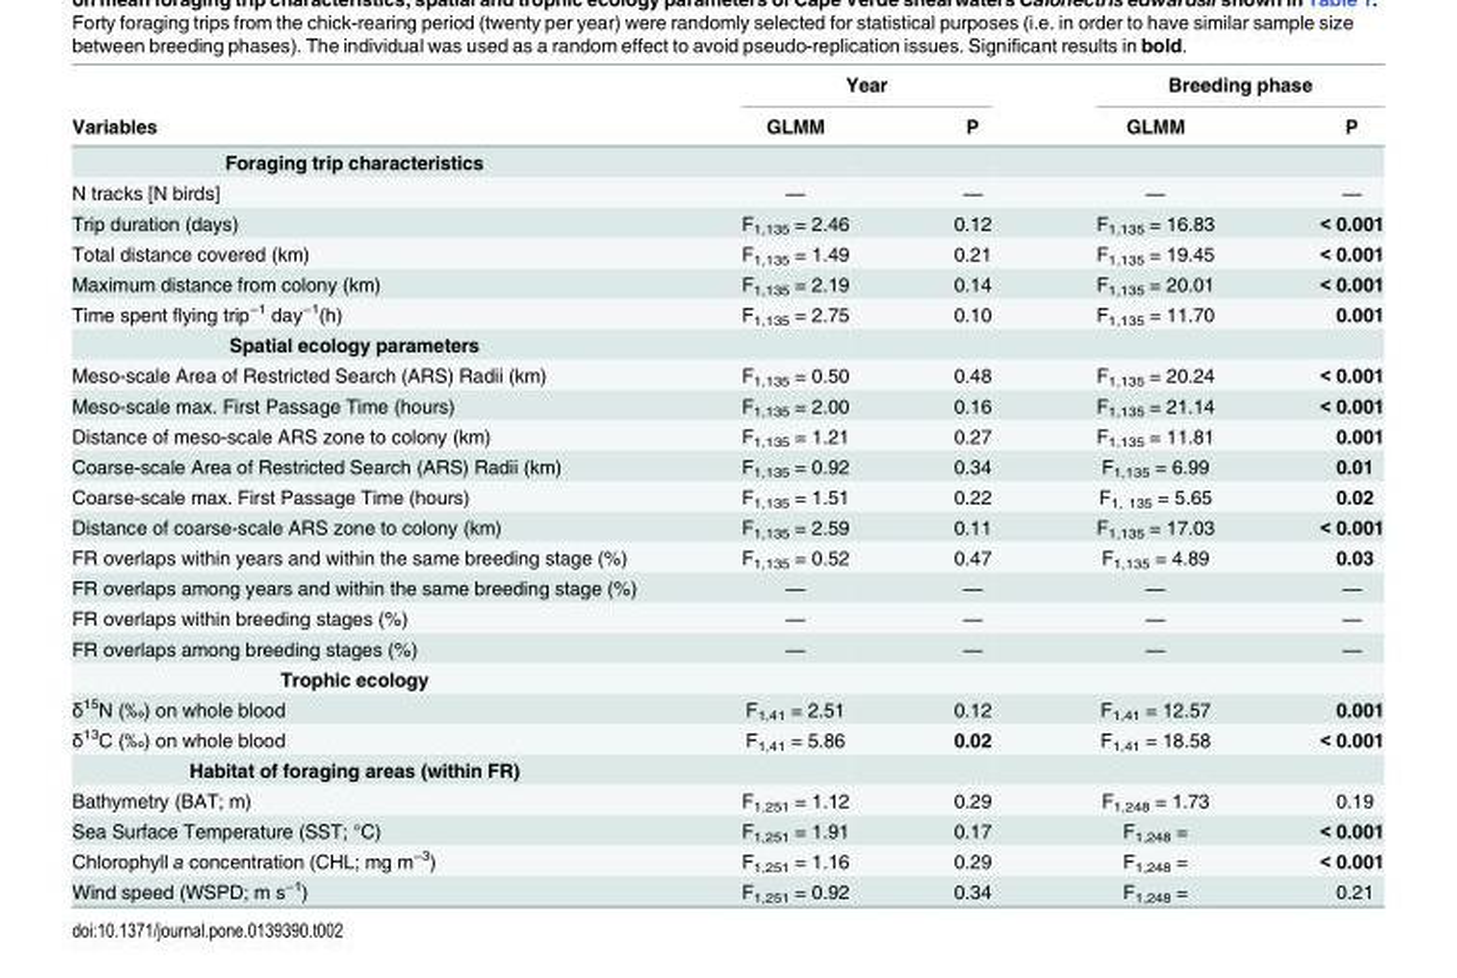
<table><thead><tr><td rowspan="2">Variables</td><td colspan="2">Year</td><td colspan="2">Breeding phase</td></tr><tr><td>GLMM</td><td>P</td><td>GLMM</td><td>P</td></tr></thead><tbody><tr><td colspan="5">Foraging trip characteristics</td></tr><tr><td>N tracks [N birds]</td><td>—</td><td>—</td><td>—</td><td>—</td></tr><tr><td>Trip duration (days)</td><td>F<sub>1,135</sub> = 2.46</td><td>0.12</td><td>F<sub>1,135</sub> = 16.83</td><td>&lt; 0.001</td></tr><tr><td>Total distance covered (km)</td><td>F<sub>1,135</sub> = 1.49</td><td>0.21</td><td>F<sub>1,135</sub> = 19.45</td><td>&lt; 0.001</td></tr><tr><td>Maximum distance from colony (km)</td><td>F<sub>1,135</sub> = 2.19</td><td>0.14</td><td>F<sub>1,135</sub> = 20.01</td><td>&lt; 0.001</td></tr><tr><td>Time spent flying trip<sup>−1</sup> day<sup>−1</sup>(h)</td><td>F<sub>1,135</sub> = 2.75</td><td>0.10</td><td>F<sub>1,135</sub> = 11.70</td><td>0.001</td></tr><tr><td colspan="5">Spatial ecology parameters</td></tr><tr><td>Meso-scale Area of Restricted Search (ARS) Radii (km)</td><td>F<sub>1,135</sub> = 0.50</td><td>0.48</td><td>F<sub>1,135</sub> = 20.24</td><td>&lt; 0.001</td></tr><tr><td>Meso-scale max. First Passage Time (hours)</td><td>F<sub>1,135</sub> = 2.00</td><td>0.16</td><td>F<sub>1,135</sub> = 21.14</td><td>&lt; 0.001</td></tr><tr><td>Distance of meso-scale ARS zone to colony (km)</td><td>F<sub>1,135</sub> = 1.21</td><td>0.27</td><td>F<sub>1,135</sub> = 11.81</td><td>0.001</td></tr><tr><td>Coarse-scale Area of Restricted Search (ARS) Radii (km)</td><td>F<sub>1,135</sub> = 0.92</td><td>0.34</td><td>F<sub>1,135</sub> = 6.99</td><td>0.01</td></tr><tr><td>Coarse-scale max. First Passage Time (hours)</td><td>F<sub>1,135</sub> = 1.51</td><td>0.22</td><td>F<sub>1, 135</sub> = 5.65</td><td>0.02</td></tr><tr><td>Distance of coarse-scale ARS zone to colony (km)</td><td>F<sub>1,135</sub> = 2.59</td><td>0.11</td><td>F<sub>1,135</sub> = 17.03</td><td>&lt; 0.001</td></tr><tr><td>FR overlaps within years and within the same breeding stage (%)</td><td>F<sub>1,135</sub> = 0.52</td><td>0.47</td><td>F<sub>1,135</sub> = 4.89</td><td>0.03</td></tr><tr><td>FR overlaps among years and within the same breeding stage (%)</td><td>—</td><td>—</td><td>—</td><td>—</td></tr><tr><td>FR overlaps within breeding stages (%)</td><td>—</td><td>—</td><td>—</td><td>—</td></tr><tr><td>FR overlaps among breeding stages (%)</td><td>—</td><td>—</td><td>—</td><td>—</td></tr><tr><td colspan="5">Trophic ecology</td></tr><tr><td>δ<sup>15</sup>N (‰) on whole blood</td><td>F<sub>1,41</sub> = 2.51</td><td>0.12</td><td>F<sub>1,41</sub> = 12.57</td><td>0.001</td></tr><tr><td>δ<sup>13</sup>C (‰) on whole blood</td><td>F<sub>1,41</sub> = 5.86</td><td>0.02</td><td>F<sub>1,41</sub> = 18.58</td><td>&lt; 0.001</td></tr><tr><td colspan="5">Habitat of foraging areas (within FR)</td></tr><tr><td>Bathymetry (BAT; m)</td><td>F<sub>1,251</sub> = 1.12</td><td>0.29</td><td>F<sub>1,248</sub> = 1.73</td><td>0.19</td></tr><tr><td>Sea Surface Temperature (SST; °C)</td><td>F<sub>1,251</sub> = 1.91</td><td>0.17</td><td>F<sub>1,248</sub> =</td><td>&lt; 0.001</td></tr><tr><td>Chlorophyll a concentration (CHL; mg m<sup>−3</sup>)</td><td>F<sub>1,251</sub> = 1.16</td><td>0.29</td><td>F<sub>1,248</sub> =</td><td>&lt; 0.001</td></tr><tr><td>Wind speed (WSPD; m s<sup>−1</sup>)</td><td>F<sub>1,251</sub> = 0.92</td><td>0.34</td><td>F<sub>1,248</sub> =</td><td>0.21</td></tr></tbody></table>